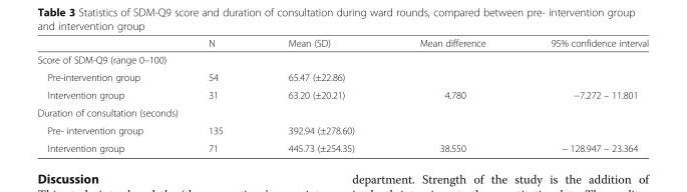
<table><thead><tr><td></td><td>N</td><td>Mean (SD)</td><td>Mean difference</td><td>95% confidence interval</td></tr></thead><tbody><tr><td colspan="5">Score of SDM-Q9 (range 0–100)</td></tr><tr><td>Pre-intervention group</td><td>54</td><td>65.47 (±22.86)</td><td></td><td></td></tr><tr><td>Intervention group</td><td>31</td><td>63.20 (±20.21)</td><td>4.780</td><td>−7.272 – 11.801</td></tr><tr><td colspan="5">Duration of consultation (seconds)</td></tr><tr><td>Pre- intervention group</td><td>135</td><td>392.94 (±278.60)</td><td></td><td></td></tr><tr><td>Intervention group</td><td>71</td><td>445.73 (±254.35)</td><td>38.550</td><td>− 128.947 – 23.364</td></tr></tbody></table>